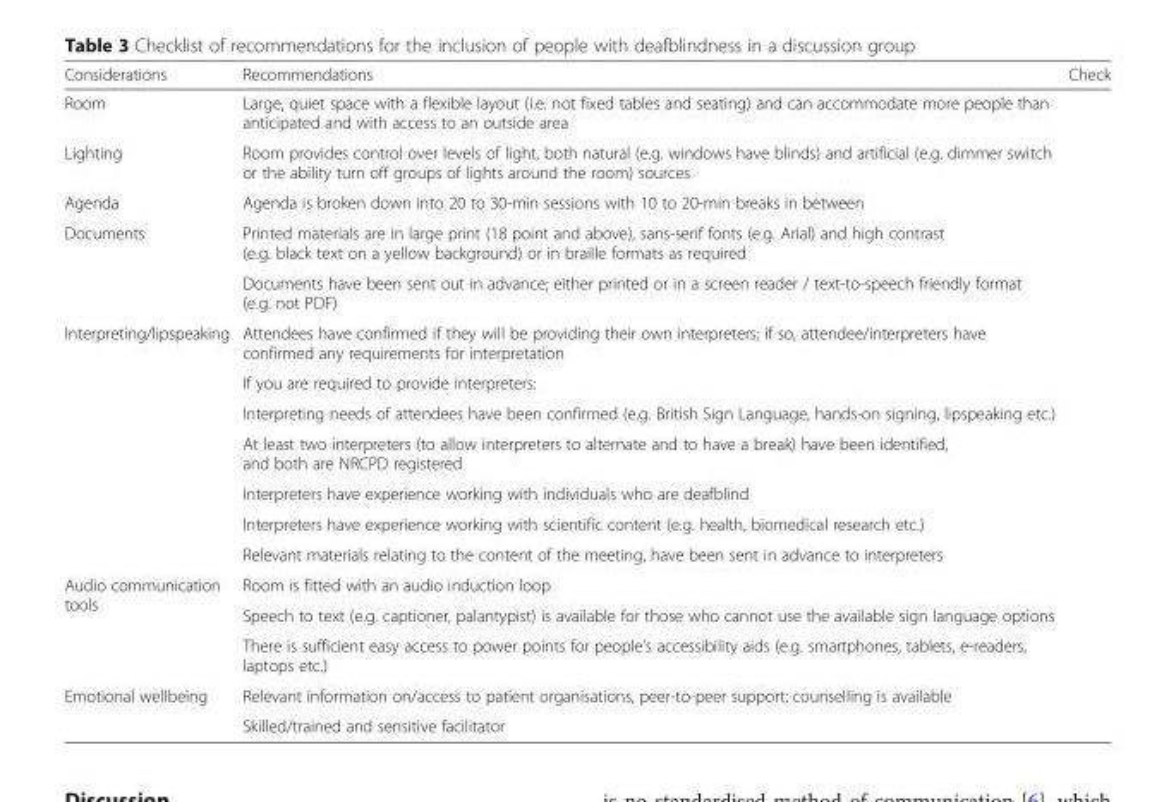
<table><thead><tr><td>Considerations</td><td>Recommendations</td><td>Check</td></tr></thead><tbody><tr><td>Room</td><td>Large, quiet space with a flexible layout (i.e. not fixed tables and seating) and can accommodate more people than anticipated and with access to an outside area</td><td></td></tr><tr><td>Lighting</td><td>Room provides control over levels of light, both natural (e.g. windows have blinds) and artificial (e.g. dimmer switch or the ability turn off groups of lights around the room) sources</td><td></td></tr><tr><td>Agenda</td><td>Agenda is broken down into 20 to 30-min sessions with 10 to 20-min breaks in between</td><td></td></tr><tr><td rowspan="2">Documents</td><td>Printed materials are in large print (18 point and above), sans-serif fonts (e.g. Arial) and high contrast (e.g. black text on a yellow background) or in braille formats as required</td><td></td></tr><tr><td>Documents have been sent out in advance; either printed or in a screen reader / text-to-speech friendly format (e.g. not PDF)</td><td></td></tr><tr><td rowspan="7">Interpreting/lipspeaking</td><td>Attendees have confirmed if they will be providing their own interpreters; if so, attendee/interpreters have confirmed any requirements for interpretation</td><td></td></tr><tr><td colspan="2">If you are required to provide interpreters:</td></tr><tr><td>Interpreting needs of attendees have been confirmed (e.g. British Sign Language, hands-on signing, lipspeaking etc.)</td><td></td></tr><tr><td>At least two interpreters (to allow interpreters to alternate and to have a break) have been identified, and both are NRCPD registered</td><td></td></tr><tr><td>Interpreters have experience working with individuals who are deafblind</td><td></td></tr><tr><td>Interpreters have experience working with scientific content (e.g. health, biomedical research etc.)</td><td></td></tr><tr><td>Relevant materials relating to the content of the meeting, have been sent in advance to interpreters</td><td></td></tr><tr><td rowspan="3">Audio communication tools</td><td>Room is fitted with an audio induction loop</td><td></td></tr><tr><td>Speech to text (e.g. captioner, palantypist) is available for those who cannot use the available sign language options</td><td></td></tr><tr><td>There is sufficient easy access to power points for people’s accessibility aids (e.g. smartphones, tablets, e-readers, laptops etc.)</td><td></td></tr><tr><td rowspan="2">Emotional wellbeing</td><td>Relevant information on/access to patient organisations, peer-to-peer support; counselling is available</td><td></td></tr><tr><td>Skilled/trained and sensitive facilitator</td><td></td></tr></tbody></table>